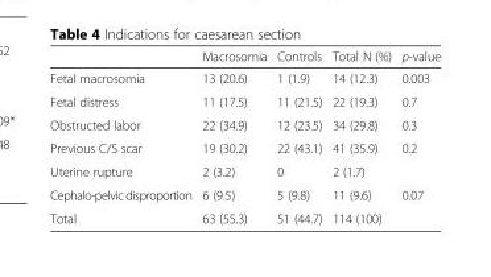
<table><thead><tr><td></td><td>Macrosomia</td><td>Controls</td><td>Total N (%)</td><td>p-value</td></tr></thead><tbody><tr><td>Fetal macrosomia</td><td>13 (20.6)</td><td>1 (1.9)</td><td>14 (12.3)</td><td>0.003</td></tr><tr><td>Fetal distress</td><td>11 (17.5)</td><td>11 (21.5)</td><td>22 (19.3)</td><td>0.7</td></tr><tr><td>Obstructed labor</td><td>22 (34.9)</td><td>12 (23.5)</td><td>34 (29.8)</td><td>0.3</td></tr><tr><td>Previous C/S scar</td><td>19 (30.2)</td><td>22 (43.1)</td><td>41 (35.9)</td><td>0.2</td></tr><tr><td>Uterine rupture</td><td>2 (3.2)</td><td>0</td><td>2 (1.7)</td><td></td></tr><tr><td>Cephalo-pelvic disproportion</td><td>6 (9.5)</td><td>5 (9.8)</td><td>11 (9.6)</td><td>0.07</td></tr><tr><td>Total</td><td>63 (55.3)</td><td>51 (44.7)</td><td>114 (100)</td><td></td></tr></tbody></table>